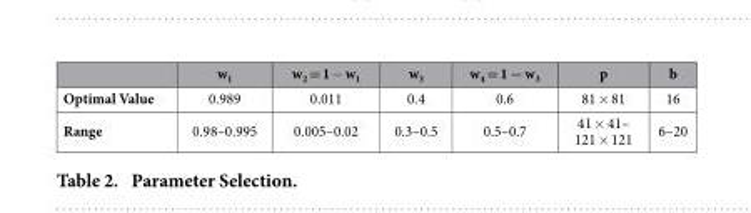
<table><thead><tr><td></td><td>w<sub>1</sub></td><td>w<sub>2</sub> = 1 − w<sub>1</sub></td><td>w<sub>3</sub></td><td>w<sub>4</sub> = 1 − w<sub>3</sub></td><td>p</td><td>b</td></tr></thead><tbody><tr><td>Optimal Value</td><td>0.989</td><td>0.011</td><td>0.4</td><td>0.6</td><td>81 × 81</td><td>16</td></tr><tr><td>Range</td><td>0.98–0.995</td><td>0.005–0.02</td><td>0.3–0.5</td><td>0.5–0.7</td><td>41 × 41– 121 × 121</td><td>6–20</td></tr></tbody></table>